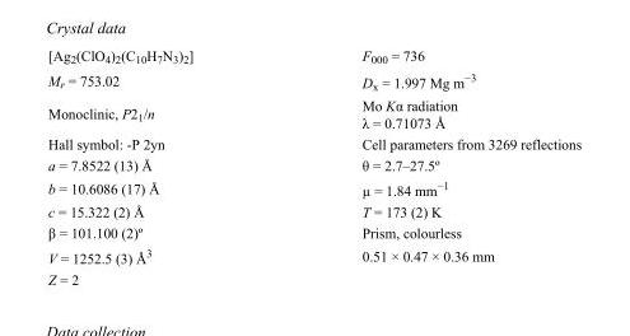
<table><tbody><tr><td>[Ag<sub>2</sub>(ClO<sub>4</sub>)<sub>2</sub>(C<sub>10</sub>H<sub>7</sub>N<sub>3</sub>)<sub>2</sub>]</td><td>F000 = 736</td></tr><tr><td>M<sub>r</sub> = 753.02</td><td>D<sub>x</sub> = 1.997 Mg m<sup>−3</sup></td></tr><tr><td>Monoclinic, P2<sub>1</sub>/n</td><td>Mo Kα radiation λ = 0.71073 Å</td></tr><tr><td>Hall symbol: -P 2yn</td><td>Cell parameters from 3269 reflections</td></tr><tr><td>a = 7.8522 (13) Å</td><td>θ = 2.7–27.5º</td></tr><tr><td>b = 10.6086 (17) Å</td><td>µ = 1.84 mm<sup>−1</sup></td></tr><tr><td>c = 15.322 (2) Å</td><td>T = 173 (2) K</td></tr><tr><td>β = 101.100 (2)º</td><td>Prism, colourless</td></tr><tr><td>V = 1252.5 (3) Å<sup>3</sup></td><td>0.51 × 0.47 × 0.36 mm</td></tr><tr><td>Z = 2</td><td></td></tr></tbody></table>